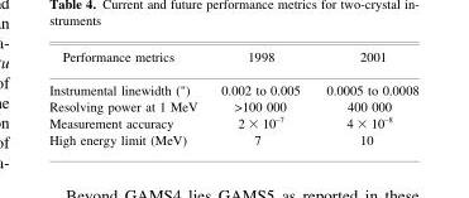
<table><thead><tr><td>Performance metrics</td><td>1998</td><td>2001</td></tr></thead><tbody><tr><td>Instrumental linewidth (&quot;)</td><td>0.002 to 0.005</td><td>0.0005 to 0.0008</td></tr><tr><td>Resolving power at 1 MeV</td><td>&gt;100 000</td><td>400 000</td></tr><tr><td>Measurement accuracy</td><td>2 × 10<sup>–7</sup></td><td>4 × 10<sup>–8</sup></td></tr><tr><td>High energy limit (MeV)</td><td>7</td><td>10</td></tr></tbody></table>